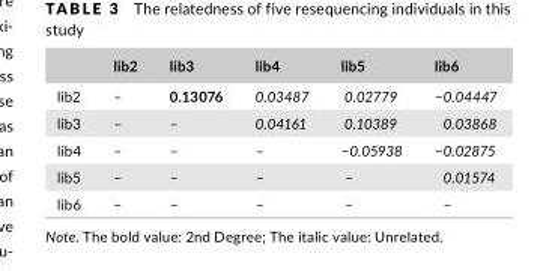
<table><thead><tr><td></td><td>lib2</td><td>lib3</td><td>lib4</td><td>lib5</td><td>lib6</td></tr></thead><tbody><tr><td>lib2</td><td>–</td><td>0.13076</td><td>0.03487</td><td>0.02779</td><td>−0.04447</td></tr><tr><td>lib3</td><td>–</td><td>–</td><td>0.04161</td><td>0.10389</td><td>0.03868</td></tr><tr><td>lib4</td><td>–</td><td>–</td><td>–</td><td>−0.05938</td><td>−0.02875</td></tr><tr><td>lib5</td><td>–</td><td>–</td><td>–</td><td>–</td><td>0.01574</td></tr><tr><td>lib6</td><td>–</td><td>–</td><td>–</td><td>–</td><td>–</td></tr></tbody></table>